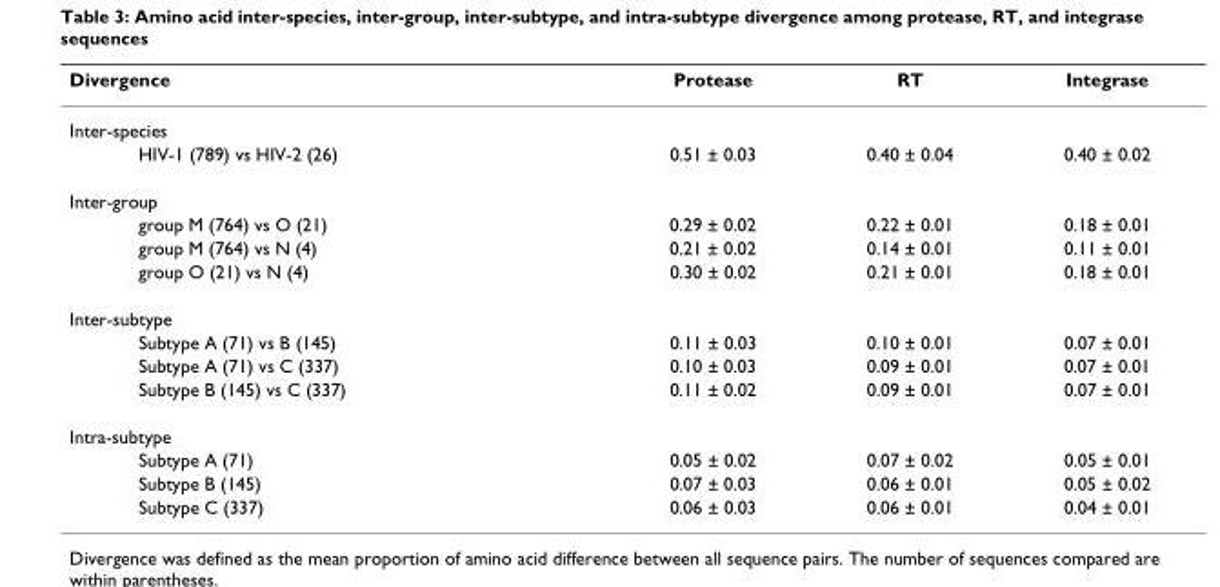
<table><thead><tr><td>Divergence</td><td>Protease</td><td>RT</td><td>Integrase</td></tr></thead><tbody><tr><td colspan="4">Inter-species</td></tr><tr><td>HIV-1 (789) vs HIV-2 (26)</td><td>0.51 ± 0.03</td><td>0.40 ± 0.04</td><td>0.40 ± 0.02</td></tr><tr><td colspan="4">Inter-group</td></tr><tr><td>group M (764) vs O (21)</td><td>0.29 ± 0.02</td><td>0.22 ± 0.01</td><td>0.18 ± 0.01</td></tr><tr><td>group M (764) vs N (4)</td><td>0.21 ± 0.02</td><td>0.14 ± 0.01</td><td>0.11 ± 0.01</td></tr><tr><td>group O (21) vs N (4)</td><td>0.30 ± 0.02</td><td>0.21 ± 0.01</td><td>0.18 ± 0.01</td></tr><tr><td colspan="4">Inter-subtype</td></tr><tr><td>Subtype A (71) vs B (145)</td><td>0.11 ± 0.03</td><td>0.10 ± 0.01</td><td>0.07 ± 0.01</td></tr><tr><td>Subtype A (71) vs C (337)</td><td>0.10 ± 0.03</td><td>0.09 ± 0.01</td><td>0.07 ± 0.01</td></tr><tr><td>Subtype B (145) vs C (337)</td><td>0.11 ± 0.02</td><td>0.09 ± 0.01</td><td>0.07 ± 0.01</td></tr><tr><td colspan="4">Intra-subtype</td></tr><tr><td>Subtype A (71)</td><td>0.05 ± 0.02</td><td>0.07 ± 0.02</td><td>0.05 ± 0.01</td></tr><tr><td>Subtype B (145)</td><td>0.07 ± 0.03</td><td>0.06 ± 0.01</td><td>0.05 ± 0.02</td></tr><tr><td>Subtype C (337)</td><td>0.06 ± 0.03</td><td>0.06 ± 0.01</td><td>0.04 ± 0.01</td></tr></tbody></table>